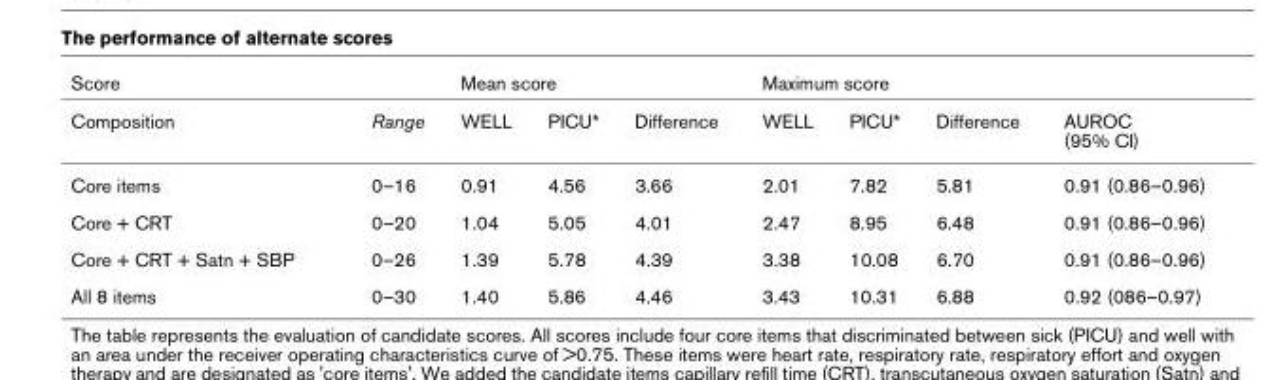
<table><thead><tr><td colspan="2">Score</td><td colspan="3">Mean score</td><td colspan="4">Maximum score</td></tr><tr><td>Composition</td><td>Range</td><td>WELL</td><td>PICU*</td><td>Difference</td><td>WELL</td><td>PICU*</td><td>Difference</td><td>AUROC (95% CI)</td></tr></thead><tbody><tr><td>Core items</td><td>0–16</td><td>0.91</td><td>4.56</td><td>3.66</td><td>2.01</td><td>7.82</td><td>5.81</td><td>0.91 (0.86–0.96)</td></tr><tr><td>Core + CRT</td><td>0–20</td><td>1.04</td><td>5.05</td><td>4.01</td><td>2.47</td><td>8.95</td><td>6.48</td><td>0.91 (0.86–0.96)</td></tr><tr><td>Core + CRT + Satn + SBP</td><td>0–26</td><td>1.39</td><td>5.78</td><td>4.39</td><td>3.38</td><td>10.08</td><td>6.70</td><td>0.91 (0.86–0.96)</td></tr><tr><td>All 8 items</td><td>0–30</td><td>1.40</td><td>5.86</td><td>4.46</td><td>3.43</td><td>10.31</td><td>6.88</td><td>0.92 (086–0.97)</td></tr></tbody></table>